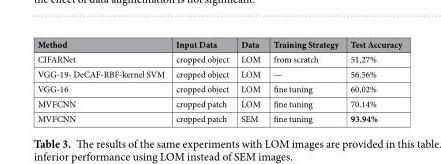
<table><thead><tr><td>Method</td><td>Input Data</td><td>Data</td><td>Training Strategy</td><td>Test Accuracy</td></tr></thead><tbody><tr><td>CIFARNet</td><td>cropped object</td><td>LOM</td><td>from scratch</td><td>51,27%</td></tr><tr><td>VGG-19- DeCAF-RBF-kernel SVM</td><td>cropped object</td><td>LOM</td><td>—</td><td>56.56%</td></tr><tr><td>VGG-16</td><td>cropped object</td><td>LOM</td><td>fine tuning</td><td>60,02%</td></tr><tr><td>MVFCNN</td><td>cropped patch</td><td>LOM</td><td>fine tuning</td><td>70.14%</td></tr><tr><td>MVFCNN</td><td>cropped patch</td><td>SEM</td><td>fine tuning</td><td>93.94%</td></tr></tbody></table>